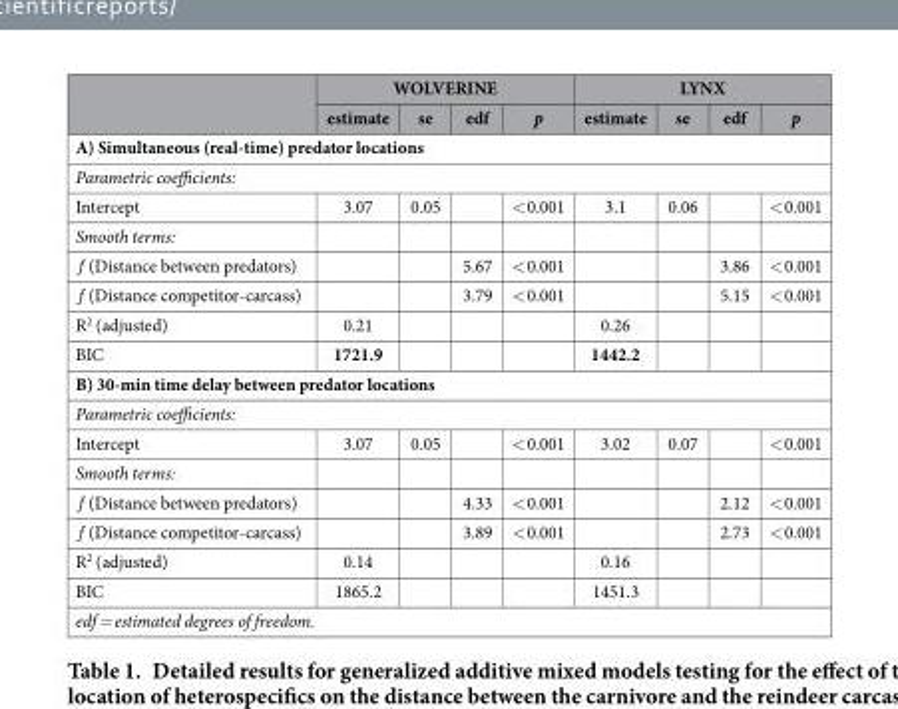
<table><thead><tr><td rowspan="2"></td><td colspan="4">WOLVERINE</td><td colspan="4">LYNX</td></tr><tr><td>estimate</td><td>se</td><td>edf</td><td>p</td><td>estimate</td><td>se</td><td>edf</td><td>p</td></tr></thead><tbody><tr><td colspan="9">A) Simultaneous (real-time) predator locations</td></tr><tr><td colspan="9">Parametric coefficients:</td></tr><tr><td>Intercept</td><td>3.07</td><td>0.05</td><td></td><td>&lt; 0.001</td><td>3.1</td><td>0.06</td><td></td><td>&lt; 0.001</td></tr><tr><td colspan="9">Smooth terms:</td></tr><tr><td>ƒ (Distance between predators)</td><td></td><td></td><td>5.67</td><td>&lt; 0.001</td><td></td><td></td><td>3.86</td><td>&lt; 0.001</td></tr><tr><td>ƒ (Distance competitor-carcass)</td><td></td><td></td><td>3.79</td><td>&lt; 0.001</td><td></td><td></td><td>5.15</td><td>&lt; 0.001</td></tr><tr><td>R<sup>2</sup> (adjusted)</td><td>0.21</td><td></td><td></td><td></td><td>0.26</td><td></td><td></td><td></td></tr><tr><td>BIC</td><td>1721.9</td><td></td><td></td><td></td><td>1442.2</td><td></td><td></td><td></td></tr><tr><td colspan="9">B) 30-min time delay between predator locations</td></tr><tr><td colspan="9">Parametric coefficients:</td></tr><tr><td>Intercept</td><td>3.07</td><td>0.05</td><td></td><td>&lt; 0.001</td><td>3.02</td><td>0.07</td><td></td><td>&lt; 0.001</td></tr><tr><td colspan="9">Smooth terms:</td></tr><tr><td>ƒ (Distance between predators)</td><td></td><td></td><td>4.33</td><td>&lt; 0.001</td><td></td><td></td><td>2.12</td><td>&lt; 0.001</td></tr><tr><td>ƒ (Distance competitor-carcass)</td><td></td><td></td><td>3.89</td><td>&lt; 0.001</td><td></td><td></td><td>2.73</td><td>&lt; 0.001</td></tr><tr><td>R<sup>2</sup> (adjusted)</td><td>0.14</td><td></td><td></td><td></td><td>0.16</td><td></td><td></td><td></td></tr><tr><td>BIC</td><td>1865.2</td><td></td><td></td><td></td><td>1451.3</td><td></td><td></td><td></td></tr><tr><td colspan="9">edf = estimated degrees of freedom.</td></tr></tbody></table>